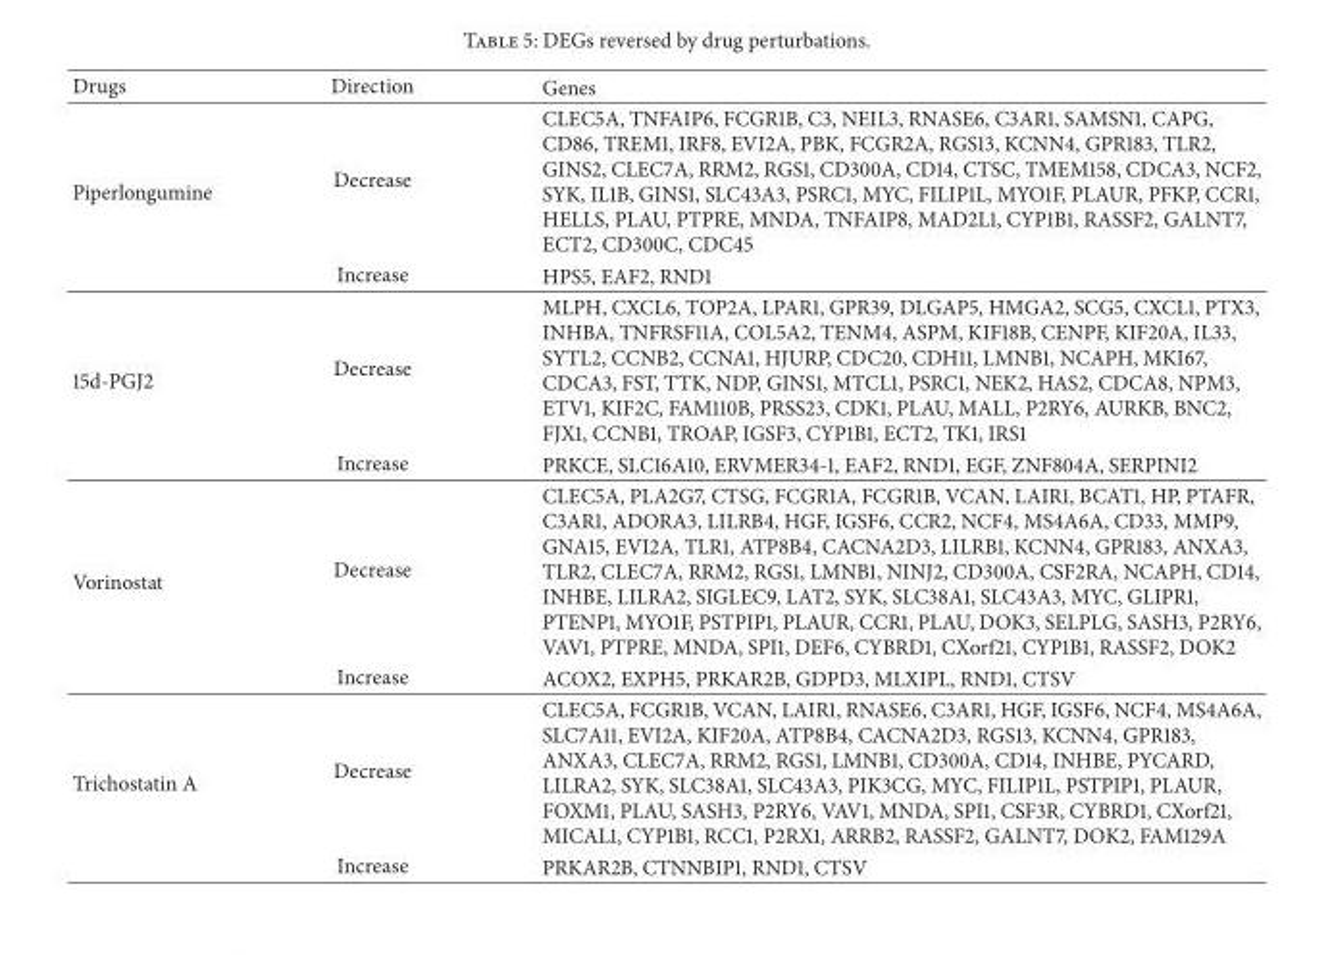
<table><thead><tr><td>Drugs</td><td>Direction</td><td>Genes</td></tr></thead><tbody><tr><td rowspan="2">Piperlongumine</td><td>Decrease</td><td>CLEC5A, TNFAIP6, FCGR1B, C3, NEIL3, RNASE6, C3AR1, SAMSN1, CAPG, CD86, TREM1, IRF8, EVI2A, PBK, FCGR2A, RGS13, KCNN4, GPR183, TLR2, GINS2, CLEC7A, RRM2, RGS1, CD300A, CD14, CTSC, TMEM158, CDCA3, NCF2, SYK, IL1B, GINS1, SLC43A3, PSRC1, MYC, FILIP1L, MYO1F, PLAUR, PFKP, CCR1, HELLS, PLAU, PTPRE, MNDA, TNFAIP8, MAD2L1, CYP1B1, RASSF2, GALNT7, ECT2, CD300C, CDC45</td></tr><tr><td>Increase</td><td>HPS5, EAF2, RND1</td></tr><tr><td rowspan="2">15d-PGJ2</td><td>Decrease</td><td>MLPH, CXCL6, TOP2A, LPAR1, GPR39, DLGAP5, HMGA2, SCG5, CXCL1, PTX3, INHBA, TNFRSF11A, COL5A2, TENM4, ASPM, KIF18B, CENPF, KIF20A, IL33, SYTL2, CCNB2, CCNA1, HJURP, CDC20, CDH11, LMNB1, NCAPH, MKI67, CDCA3, FST, TTK, NDP, GINS1, MTCL1, PSRC1, NEK2, HAS2, CDCA8, NPM3, ETV1, KIF2C, FAM110B, PRSS23, CDK1, PLAU, MALL, P2RY6, AURKB, BNC2, FJX1, CCNB1, TROAP, IGSF3, CYP1B1, ECT2, TK1, IRS1</td></tr><tr><td>Increase</td><td>PRKCE, SLC16A10, ERVMER34-1, EAF2, RND1, EGF, ZNF804A, SERPINI2</td></tr><tr><td rowspan="2">Vorinostat</td><td>Decrease</td><td>CLEC5A, PLA2G7, CTSG, FCGR1A, FCGR1B, VCAN, LAIR1, BCAT1, HP, PTAFR, C3AR1, ADORA3, LILRB4, HGF, IGSF6, CCR2, NCF4, MS4A6A, CD33, MMP9, GNA15, EVI2A, TLR1, ATP8B4, CACNA2D3, LILRB1, KCNN4, GPR183, ANXA3, TLR2, CLEC7A, RRM2, RGS1, LMNB1, NINJ2, CD300A, CSF2RA, NCAPH, CD14, INHBE, LILRA2, SIGLEC9, LAT2, SYK, SLC38A1, SLC43A3, MYC, GLIPR1, PTENP1, MYO1F, PSTPIP1, PLAUR, CCR1, PLAU, DOK3, SELPLG, SASH3, P2RY6, VAV1, PTPRE, MNDA, SPI1, DEF6, CYBRD1, CXorf21, CYP1B1, RASSF2, DOK2</td></tr><tr><td>Increase</td><td>ACOX2, EXPH5, PRKAR2B, GDPD3, MLXIPL, RND1, CTSV</td></tr><tr><td rowspan="2">Trichostatin A</td><td>Decrease</td><td>CLEC5A, FCGR1B, VCAN, LAIR1, RNASE6, C3AR1, HGF, IGSF6, NCF4, MS4A6A, SLC7A11, EVI2A, KIF20A, ATP8B4, CACNA2D3, RGS13, KCNN4, GPR183, ANXA3, CLEC7A, RRM2, RGS1, LMNB1, CD300A, CD14, INHBE, PYCARD, LILRA2, SYK, SLC38A1, SLC43A3, PIK3CG, MYC, FILIP1L, PSTPIP1, PLAUR, FOXM1, PLAU, SASH3, P2RY6, VAV1, MNDA, SPI1, CSF3R, CYBRD1, CXorf21, MICAL1, CYP1B1, RCC1, P2RX1, ARRB2, RASSF2, GALNT7, DOK2, FAM129A</td></tr><tr><td>Increase</td><td>PRKAR2B, CTNNBIP1, RND1, CTSV</td></tr></tbody></table>